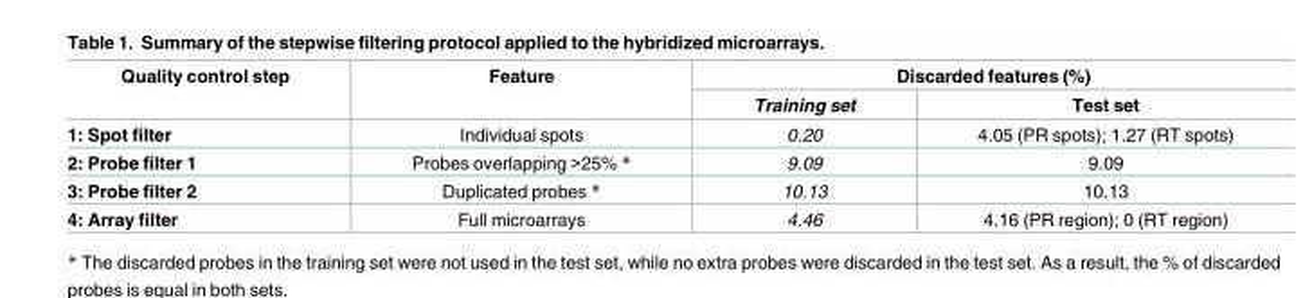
<table><thead><tr><td rowspan="2">Quality control step</td><td rowspan="2">Feature</td><td colspan="2">Discarded features (%)</td></tr><tr><td>Training set</td><td>Test set</td></tr></thead><tbody><tr><td>1: Spot filter</td><td>Individual spots</td><td>0.20</td><td>4.05 (PR spots); 1.27 (RT spots)</td></tr><tr><td>2: Probe filter 1</td><td>Probes overlapping &gt;25% *</td><td>9.09</td><td>9.09</td></tr><tr><td>3: Probe filter 2</td><td>Duplicated probes *</td><td>10.13</td><td>10.13</td></tr><tr><td>4: Array filter</td><td>Full microarrays</td><td>4.46</td><td>4.16 (PR region); 0 (RT region)</td></tr></tbody></table>